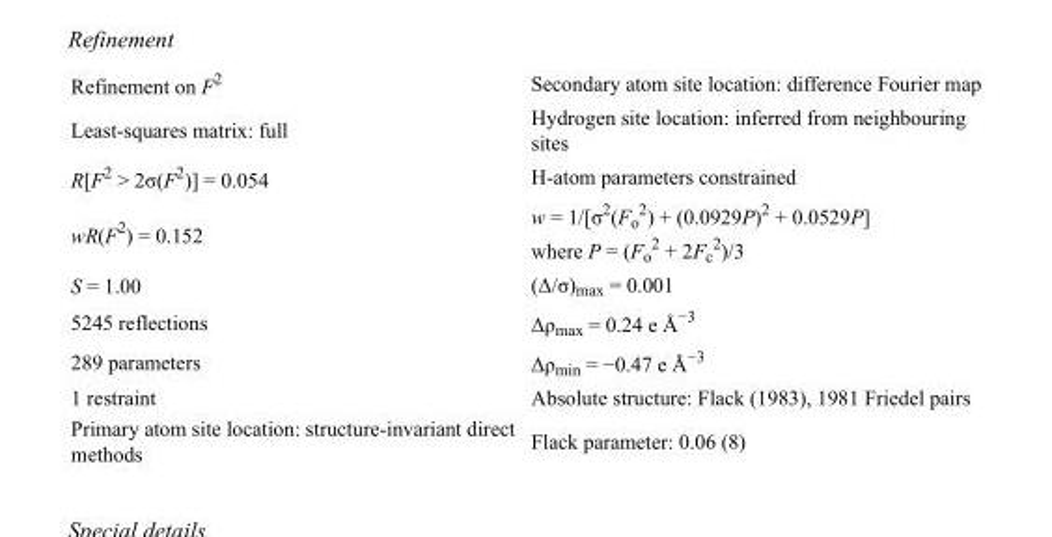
<table><tbody><tr><td>Refinement on F<sup>2</sup></td><td>Secondary atom site location: difference Fourier map</td></tr><tr><td>Least-squares matrix: full</td><td>Hydrogen site location: inferred from neighbouring sites</td></tr><tr><td>R[F<sup>2</sup> &gt; 2σ(F<sup>2</sup>)] = 0.054</td><td>H-atom parameters constrained</td></tr><tr><td>wR(F<sup>2</sup>) = 0.152</td><td>w = 1/[σ<sup>2</sup>(F<sub>o</sub> <sup>2</sup>) + (0.0929P)<sup>2</sup> + 0.0529P] where P = (F<sub>o</sub> <sup>2</sup> + 2F<sub>c</sub> <sup>2</sup>)/3</td></tr><tr><td>S = 1.00</td><td>(Δ/σ)<sub>max</sub> = 0.001</td></tr><tr><td>5245 reflections</td><td>Δρ<sub>max</sub> = 0.24 e Å<sup>−3</sup></td></tr><tr><td>289 parameters</td><td>Δρ<sub>min</sub> = −0.47 e Å<sup>−3</sup></td></tr><tr><td>1 restraint</td><td>Absolute structure: Flack (1983), 1981 Friedel pairs</td></tr><tr><td>Primary atom site location: structure-invariant direct methods</td><td>Flack parameter: 0.06 (8)</td></tr></tbody></table>